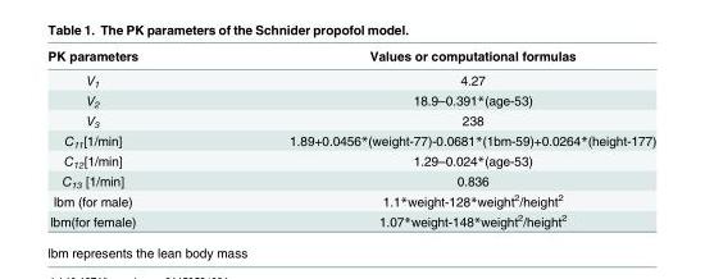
<table><thead><tr><td>PK parameters</td><td>Values or computational formulas</td></tr></thead><tbody><tr><td>V<sub>1</sub></td><td>4.27</td></tr><tr><td>V<sub>2</sub></td><td>18.9–0.391*(age-53)</td></tr><tr><td>V<sub>3</sub></td><td>238</td></tr><tr><td>C<sub>11</sub>[1/min]</td><td>1.89+0.0456*(weight-77)-0.0681*(1bm-59)+0.0264*(height-177)</td></tr><tr><td>C<sub>12</sub>[1/min]</td><td>1.29–0.024*(age-53)</td></tr><tr><td>C<sub>13</sub> [1/min]</td><td>0.836</td></tr><tr><td>lbm (for male)</td><td>1.1*weight-128*weight<sup>2</sup>/height<sup>2</sup></td></tr><tr><td>lbm(for female)</td><td>1.07*weight-148*weight<sup>2</sup>/height<sup>2</sup></td></tr></tbody></table>